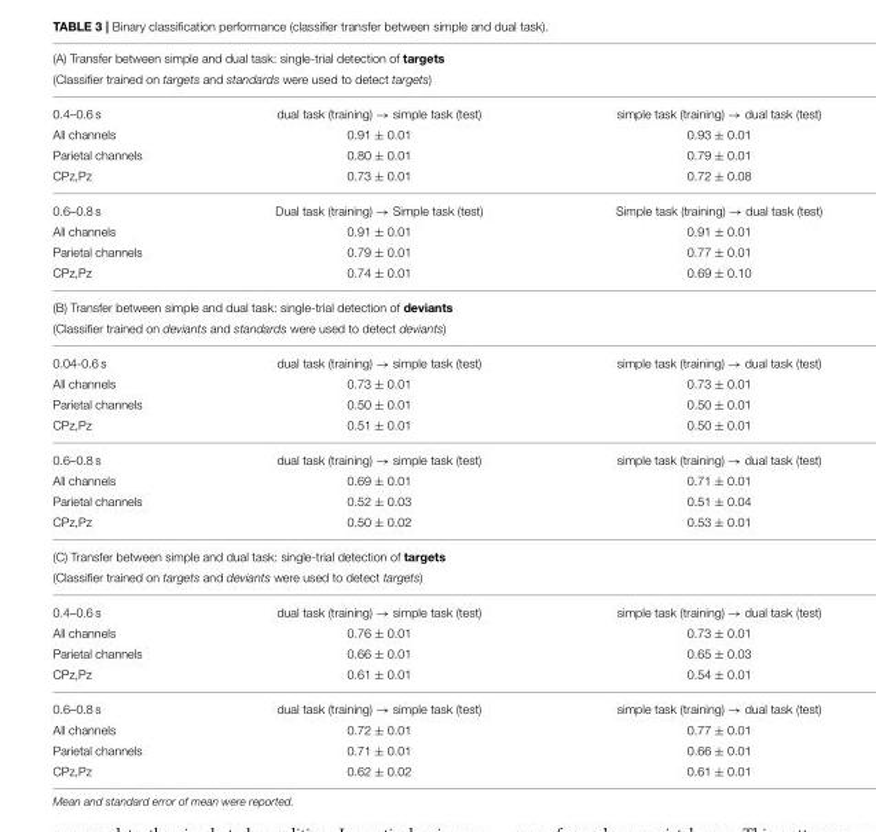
<table><tbody><tr><td colspan="3">(A) Transfer between simple and dual task: single-trial detection of targets</td></tr><tr><td colspan="3">(Classifier trained on targets and standards were used to detect targets)</td></tr><tr><td>0.4–0.6 s</td><td>dual task (training) → simple task (test)</td><td>simple task (training) → dual task (test)</td></tr><tr><td>All channels</td><td>0.91 ± 0.01</td><td>0.93 ± 0.01</td></tr><tr><td>Parietal channels</td><td>0.80 ± 0.01</td><td>0.79 ± 0.01</td></tr><tr><td>CPz,Pz</td><td>0.73 ± 0.01</td><td>0.72 ± 0.08</td></tr><tr><td>0.6–0.8 s</td><td>Dual task (training) → Simple task (test)</td><td>Simple task (training) → dual task (test)</td></tr><tr><td>All channels</td><td>0.91 ± 0.01</td><td>0.91 ± 0.01</td></tr><tr><td>Parietal channels</td><td>0.79 ± 0.01</td><td>0.77 ± 0.01</td></tr><tr><td>CPz,Pz</td><td>0.74 ± 0.01</td><td>0.69 ± 0.10</td></tr><tr><td colspan="3">(B) Transfer between simple and dual task: single-trial detection of deviants</td></tr><tr><td colspan="3">(Classifier trained on deviants and standards were used to detect deviants)</td></tr><tr><td>0.04-0.6 s</td><td>dual task (training) → simple task (test)</td><td>simple task (training) → dual task (test)</td></tr><tr><td>All channels</td><td>0.73 ± 0.01</td><td>0.73 ± 0.01</td></tr><tr><td>Parietal channels</td><td>0.50 ± 0.01</td><td>0.50 ± 0.01</td></tr><tr><td>CPz,Pz</td><td>0.51 ± 0.01</td><td>0.50 ± 0.01</td></tr><tr><td>0.6–0.8 s</td><td>dual task (training) → simple task (test)</td><td>simple task (training) → dual task (test)</td></tr><tr><td>All channels</td><td>0.69 ± 0.01</td><td>0.71 ± 0.01</td></tr><tr><td>Parietal channels</td><td>0.52 ± 0.03</td><td>0.51 ± 0.04</td></tr><tr><td>CPz,Pz</td><td>0.50 ± 0.02</td><td>0.53 ± 0.01</td></tr><tr><td colspan="3">(C) Transfer between simple and dual task: single-trial detection of targets</td></tr><tr><td colspan="3">(Classifier trained on targets and deviants were used to detect targets)</td></tr><tr><td>0.4–0.6 s</td><td>dual task (training) → simple task (test)</td><td>simple task (training) → dual task (test)</td></tr><tr><td>All channels</td><td>0.76 ± 0.01</td><td>0.73 ± 0.01</td></tr><tr><td>Parietal channels</td><td>0.66 ± 0.01</td><td>0.65 ± 0.03</td></tr><tr><td>CPz,Pz</td><td>0.61 ± 0.01</td><td>0.54 ± 0.01</td></tr><tr><td>0.6–0.8 s</td><td>dual task (training) → simple task (test)</td><td>simple task (training) → dual task (test)</td></tr><tr><td>All channels</td><td>0.72 ± 0.01</td><td>0.77 ± 0.01</td></tr><tr><td>Parietal channels</td><td>0.71 ± 0.01</td><td>0.66 ± 0.01</td></tr><tr><td>CPz,Pz</td><td>0.62 ± 0.02</td><td>0.61 ± 0.01</td></tr></tbody></table>